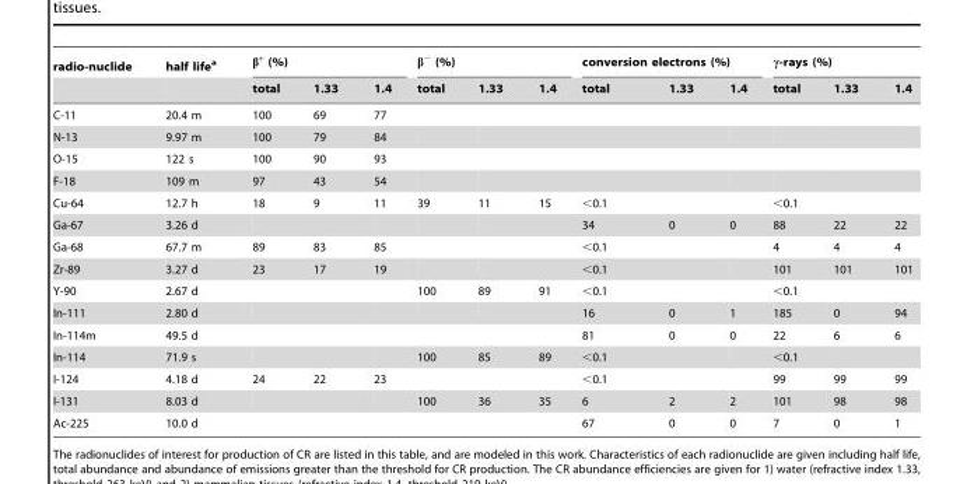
<table><thead><tr><td rowspan="2">radio-nuclide</td><td rowspan="2">half life<sup>a</sup></td><td colspan="3">β<sup>+</sup> (%)</td><td colspan="3">β<sup>−</sup> (%)</td><td colspan="3">conversion electrons (%)</td><td colspan="3">γ-rays (%)</td></tr><tr><td>total</td><td>1.33</td><td>1.4</td><td>total</td><td>1.33</td><td>1.4</td><td>total</td><td>1.33</td><td>1.4</td><td>total</td><td>1.33</td><td>1.4</td></tr></thead><tbody><tr><td>C-11</td><td>20.4 m</td><td>100</td><td>69</td><td>77</td><td></td><td></td><td></td><td></td><td></td><td></td><td></td><td></td><td></td></tr><tr><td>N-13</td><td>9.97 m</td><td>100</td><td>79</td><td>84</td><td></td><td></td><td></td><td></td><td></td><td></td><td></td><td></td><td></td></tr><tr><td>O-15</td><td>122 s</td><td>100</td><td>90</td><td>93</td><td></td><td></td><td></td><td></td><td></td><td></td><td></td><td></td><td></td></tr><tr><td>F-18</td><td>109 m</td><td>97</td><td>43</td><td>54</td><td></td><td></td><td></td><td></td><td></td><td></td><td></td><td></td><td></td></tr><tr><td>Cu-64</td><td>12.7 h</td><td>18</td><td>9</td><td>11</td><td>39</td><td>11</td><td>15</td><td>&lt;0.1</td><td></td><td></td><td>&lt;0.1</td><td></td><td></td></tr><tr><td>Ga-67</td><td>3.26 d</td><td></td><td></td><td></td><td></td><td></td><td></td><td>34</td><td>0</td><td>0</td><td>88</td><td>22</td><td>22</td></tr><tr><td>Ga-68</td><td>67.7 m</td><td>89</td><td>83</td><td>85</td><td></td><td></td><td></td><td>&lt;0.1</td><td></td><td></td><td>4</td><td>4</td><td>4</td></tr><tr><td>Zr-89</td><td>3.27 d</td><td>23</td><td>17</td><td>19</td><td></td><td></td><td></td><td>&lt;0.1</td><td></td><td></td><td>101</td><td>101</td><td>101</td></tr><tr><td>Y-90</td><td>2.67 d</td><td></td><td></td><td></td><td>100</td><td>89</td><td>91</td><td>&lt;0.1</td><td></td><td></td><td>&lt;0.1</td><td></td><td></td></tr><tr><td>In-111</td><td>2.80 d</td><td></td><td></td><td></td><td></td><td></td><td></td><td>16</td><td>0</td><td>1</td><td>185</td><td>0</td><td>94</td></tr><tr><td>In-114m</td><td>49.5 d</td><td></td><td></td><td></td><td></td><td></td><td></td><td>81</td><td>0</td><td>0</td><td>22</td><td>6</td><td>6</td></tr><tr><td>In-114</td><td>71.9 s</td><td></td><td></td><td></td><td>100</td><td>85</td><td>89</td><td>&lt;0.1</td><td></td><td></td><td>&lt;0.1</td><td></td><td></td></tr><tr><td>I-124</td><td>4.18 d</td><td>24</td><td>22</td><td>23</td><td></td><td></td><td></td><td>&lt;0.1</td><td></td><td></td><td>99</td><td>99</td><td>99</td></tr><tr><td>I-131</td><td>8.03 d</td><td></td><td></td><td></td><td>100</td><td>36</td><td>35</td><td>6</td><td>2</td><td>2</td><td>101</td><td>98</td><td>98</td></tr><tr><td>Ac-225</td><td>10.0 d</td><td></td><td></td><td></td><td></td><td></td><td></td><td>67</td><td>0</td><td>0</td><td>7</td><td>0</td><td>1</td></tr></tbody></table>